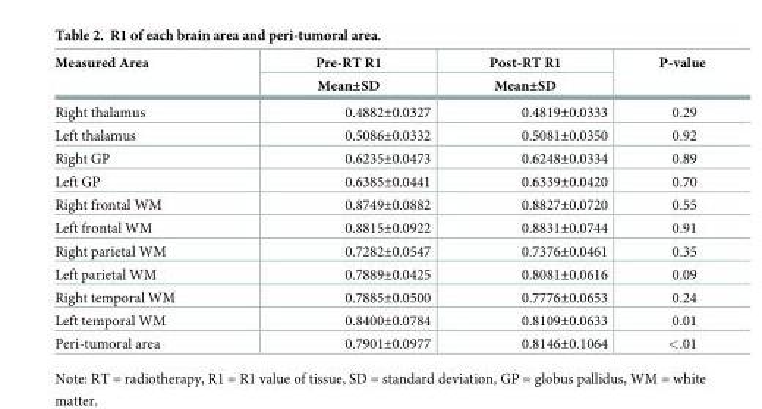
<table><thead><tr><td rowspan="2">Measured Area</td><td rowspan="2">Pre-RT R1 Mean±SD</td><td rowspan="2">Post-RT R1 Mean±SD</td><td rowspan="2">P-value</td></tr><tr></tr></thead><tbody><tr><td>Right thalamus</td><td>0.4882±0.0327</td><td>0.4819±0.0333</td><td>0.29</td></tr><tr><td>Left thalamus</td><td>0.5086±0.0332</td><td>0.5081±0.0350</td><td>0.92</td></tr><tr><td>Right GP</td><td>0.6235±0.0473</td><td>0.6248±0.0334</td><td>0.89</td></tr><tr><td>Left GP</td><td>0.6385±0.0441</td><td>0.6339±0.0420</td><td>0.70</td></tr><tr><td>Right frontal WM</td><td>0.8749±0.0882</td><td>0.8827±0.0720</td><td>0.55</td></tr><tr><td>Left frontal WM</td><td>0.8815±0.0922</td><td>0.8831±0.0744</td><td>0.91</td></tr><tr><td>Right parietal WM</td><td>0.7282±0.0547</td><td>0.7376±0.0461</td><td>0.35</td></tr><tr><td>Left parietal WM</td><td>0.7889±0.0425</td><td>0.8081±0.0616</td><td>0.09</td></tr><tr><td>Right temporal WM</td><td>0.7885±0.0500</td><td>0.7776±0.0653</td><td>0.24</td></tr><tr><td>Left temporal WM</td><td>0.8400±0.0784</td><td>0.8109±0.0633</td><td>0.01</td></tr><tr><td>Peri-tumoral area</td><td>0.7901±0.0977</td><td>0.8146±0.1064</td><td>&lt;.01</td></tr></tbody></table>